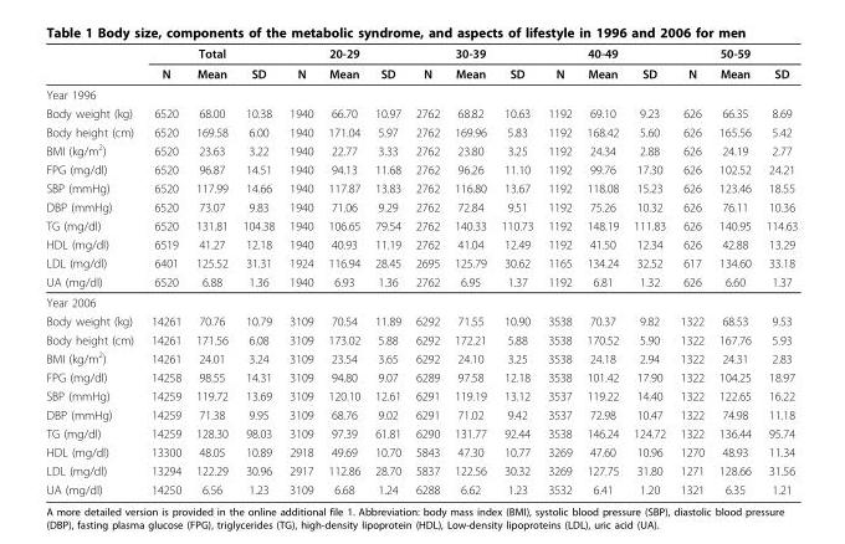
<table><thead><tr><td rowspan="2"></td><td rowspan="2">N</td><td rowspan="2">Total Mean</td><td rowspan="2">SD</td><td rowspan="2">N</td><td rowspan="2">20-29 Mean</td><td rowspan="2">SD</td><td rowspan="2">N</td><td rowspan="2">30-39 Mean</td><td rowspan="2">SD</td><td rowspan="2">N</td><td rowspan="2">40-49 Mean</td><td rowspan="2">SD</td><td rowspan="2">N</td><td rowspan="2">50-59 Mean</td><td rowspan="2">SD</td></tr><tr></tr></thead><tbody><tr><td colspan="16">Year 1996</td></tr><tr><td>Body weight (kg)</td><td>6520</td><td>68.00</td><td>10.38</td><td>1940</td><td>66.70</td><td>10.97</td><td>2762</td><td>68.82</td><td>10.63</td><td>1192</td><td>69.10</td><td>9.23</td><td>626</td><td>66.35</td><td>8.69</td></tr><tr><td>Body height (cm)</td><td>6520</td><td>169.58</td><td>6.00</td><td>1940</td><td>171.04</td><td>5.97</td><td>2762</td><td>169.96</td><td>5.83</td><td>1192</td><td>168.42</td><td>5.60</td><td>626</td><td>165.56</td><td>5.42</td></tr><tr><td>BMI (kg/m<sup>2</sup>)</td><td>6520</td><td>23.63</td><td>3.22</td><td>1940</td><td>22.77</td><td>3.33</td><td>2762</td><td>23.80</td><td>3.25</td><td>1192</td><td>24.34</td><td>2.88</td><td>626</td><td>24.19</td><td>2.77</td></tr><tr><td>FPG (mg/dl)</td><td>6520</td><td>96.87</td><td>14.51</td><td>1940</td><td>94.13</td><td>11.68</td><td>2762</td><td>96.26</td><td>11.10</td><td>1192</td><td>99.76</td><td>17.30</td><td>626</td><td>102.52</td><td>24.21</td></tr><tr><td>SBP (mmHg)</td><td>6520</td><td>117.99</td><td>14.66</td><td>1940</td><td>117.87</td><td>13.83</td><td>2762</td><td>116.80</td><td>13.67</td><td>1192</td><td>118.08</td><td>15.23</td><td>626</td><td>123.46</td><td>18.55</td></tr><tr><td>DBP (mmHg)</td><td>6520</td><td>73.07</td><td>9.83</td><td>1940</td><td>71.06</td><td>9.29</td><td>2762</td><td>72.84</td><td>9.51</td><td>1192</td><td>75.26</td><td>10.32</td><td>626</td><td>76.11</td><td>10.36</td></tr><tr><td>TG (mg/dl)</td><td>6520</td><td>131.81</td><td>104.38</td><td>1940</td><td>106.65</td><td>79.54</td><td>2762</td><td>140.33</td><td>110.73</td><td>1192</td><td>148.19</td><td>111.83</td><td>626</td><td>140.95</td><td>114.63</td></tr><tr><td>HDL (mg/dl)</td><td>6519</td><td>41.27</td><td>12.18</td><td>1940</td><td>40.93</td><td>11.19</td><td>2762</td><td>41.04</td><td>12.49</td><td>1192</td><td>41.50</td><td>12.34</td><td>626</td><td>42.88</td><td>13.29</td></tr><tr><td>LDL (mg/dl)</td><td>6401</td><td>125.52</td><td>31.31</td><td>1924</td><td>116.94</td><td>28.45</td><td>2695</td><td>125.79</td><td>30.62</td><td>1165</td><td>134.24</td><td>32.52</td><td>617</td><td>134.60</td><td>33.18</td></tr><tr><td>UA (mg/dl)</td><td>6520</td><td>6.88</td><td>1.36</td><td>1940</td><td>6.93</td><td>1.36</td><td>2762</td><td>6.95</td><td>1.37</td><td>1192</td><td>6.81</td><td>1.32</td><td>626</td><td>6.60</td><td>1.37</td></tr><tr><td colspan="16">Year 2006</td></tr><tr><td>Body weight (kg)</td><td>14261</td><td>70.76</td><td>10.79</td><td>3109</td><td>70.54</td><td>11.89</td><td>6292</td><td>71.55</td><td>10.90</td><td>3538</td><td>70.37</td><td>9.82</td><td>1322</td><td>68.53</td><td>9.53</td></tr><tr><td>Body height (cm)</td><td>14261</td><td>171.56</td><td>6.08</td><td>3109</td><td>173.02</td><td>5.88</td><td>6292</td><td>172.21</td><td>5.88</td><td>3538</td><td>170.52</td><td>5.90</td><td>1322</td><td>167.76</td><td>5.93</td></tr><tr><td>BMI (kg/m<sup>2</sup>)</td><td>14261</td><td>24.01</td><td>3.24</td><td>3109</td><td>23.54</td><td>3.65</td><td>6292</td><td>24.10</td><td>3.25</td><td>3538</td><td>24.18</td><td>2.94</td><td>1322</td><td>24.31</td><td>2.83</td></tr><tr><td>FPG (mg/dl)</td><td>14258</td><td>98.55</td><td>14.31</td><td>3109</td><td>94.80</td><td>9.07</td><td>6289</td><td>97.58</td><td>12.18</td><td>3538</td><td>101.42</td><td>17.90</td><td>1322</td><td>104.25</td><td>18.97</td></tr><tr><td>SBP (mmHg)</td><td>14259</td><td>119.72</td><td>13.69</td><td>3109</td><td>120.10</td><td>12.61</td><td>6291</td><td>119.19</td><td>13.12</td><td>3537</td><td>119.22</td><td>14.40</td><td>1322</td><td>122.65</td><td>16.22</td></tr><tr><td>DBP (mmHg)</td><td>14259</td><td>71.38</td><td>9.95</td><td>3109</td><td>68.76</td><td>9.02</td><td>6291</td><td>71.02</td><td>9.42</td><td>3537</td><td>72.98</td><td>10.47</td><td>1322</td><td>74.98</td><td>11.18</td></tr><tr><td>TG (mg/dl)</td><td>14259</td><td>128.30</td><td>98.03</td><td>3109</td><td>97.39</td><td>61.81</td><td>6290</td><td>131.77</td><td>92.44</td><td>3538</td><td>146.24</td><td>124.72</td><td>1322</td><td>136.44</td><td>95.74</td></tr><tr><td>HDL (mg/dl)</td><td>13300</td><td>48.05</td><td>10.89</td><td>2918</td><td>49.69</td><td>10.70</td><td>5843</td><td>47.30</td><td>10.77</td><td>3269</td><td>47.60</td><td>10.96</td><td>1270</td><td>48.93</td><td>11.34</td></tr><tr><td>LDL (mg/dl)</td><td>13294</td><td>122.29</td><td>30.96</td><td>2917</td><td>112.86</td><td>28.70</td><td>5837</td><td>122.56</td><td>30.32</td><td>3269</td><td>127.75</td><td>31.80</td><td>1271</td><td>128.66</td><td>31.56</td></tr><tr><td>UA (mg/dl)</td><td>14250</td><td>6.56</td><td>1.23</td><td>3109</td><td>6.68</td><td>1.24</td><td>6288</td><td>6.62</td><td>1.23</td><td>3532</td><td>6.41</td><td>1.20</td><td>1321</td><td>6.35</td><td>1.21</td></tr></tbody></table>